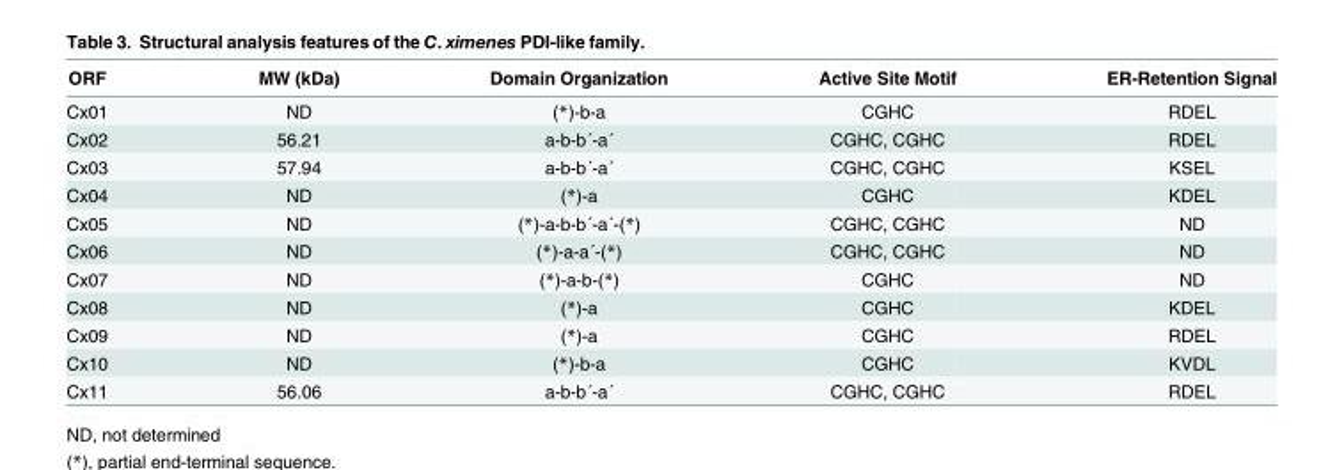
<table><thead><tr><td>ORF</td><td>MW (kDa)</td><td>Domain Organization</td><td>Active Site Motif</td><td>ER-Retention Signal</td></tr></thead><tbody><tr><td>Cx01</td><td>ND</td><td>(*)-b-a</td><td>CGHC</td><td>RDEL</td></tr><tr><td>Cx02</td><td>56.21</td><td>a-b-b´-a´</td><td>CGHC, CGHC</td><td>RDEL</td></tr><tr><td>Cx03</td><td>57.94</td><td>a-b-b´-a´</td><td>CGHC, CGHC</td><td>KSEL</td></tr><tr><td>Cx04</td><td>ND</td><td>(*)-a</td><td>CGHC</td><td>KDEL</td></tr><tr><td>Cx05</td><td>ND</td><td>(*)-a-b-b´-a´-(*)</td><td>CGHC, CGHC</td><td>ND</td></tr><tr><td>Cx06</td><td>ND</td><td>(*)-a-a´-(*)</td><td>CGHC, CGHC</td><td>ND</td></tr><tr><td>Cx07</td><td>ND</td><td>(*)-a-b-(*)</td><td>CGHC</td><td>ND</td></tr><tr><td>Cx08</td><td>ND</td><td>(*)-a</td><td>CGHC</td><td>KDEL</td></tr><tr><td>Cx09</td><td>ND</td><td>(*)-a</td><td>CGHC</td><td>RDEL</td></tr><tr><td>Cx10</td><td>ND</td><td>(*)-b-a</td><td>CGHC</td><td>KVDL</td></tr><tr><td>Cx11</td><td>56.06</td><td>a-b-b´-a´</td><td>CGHC, CGHC</td><td>RDEL</td></tr></tbody></table>